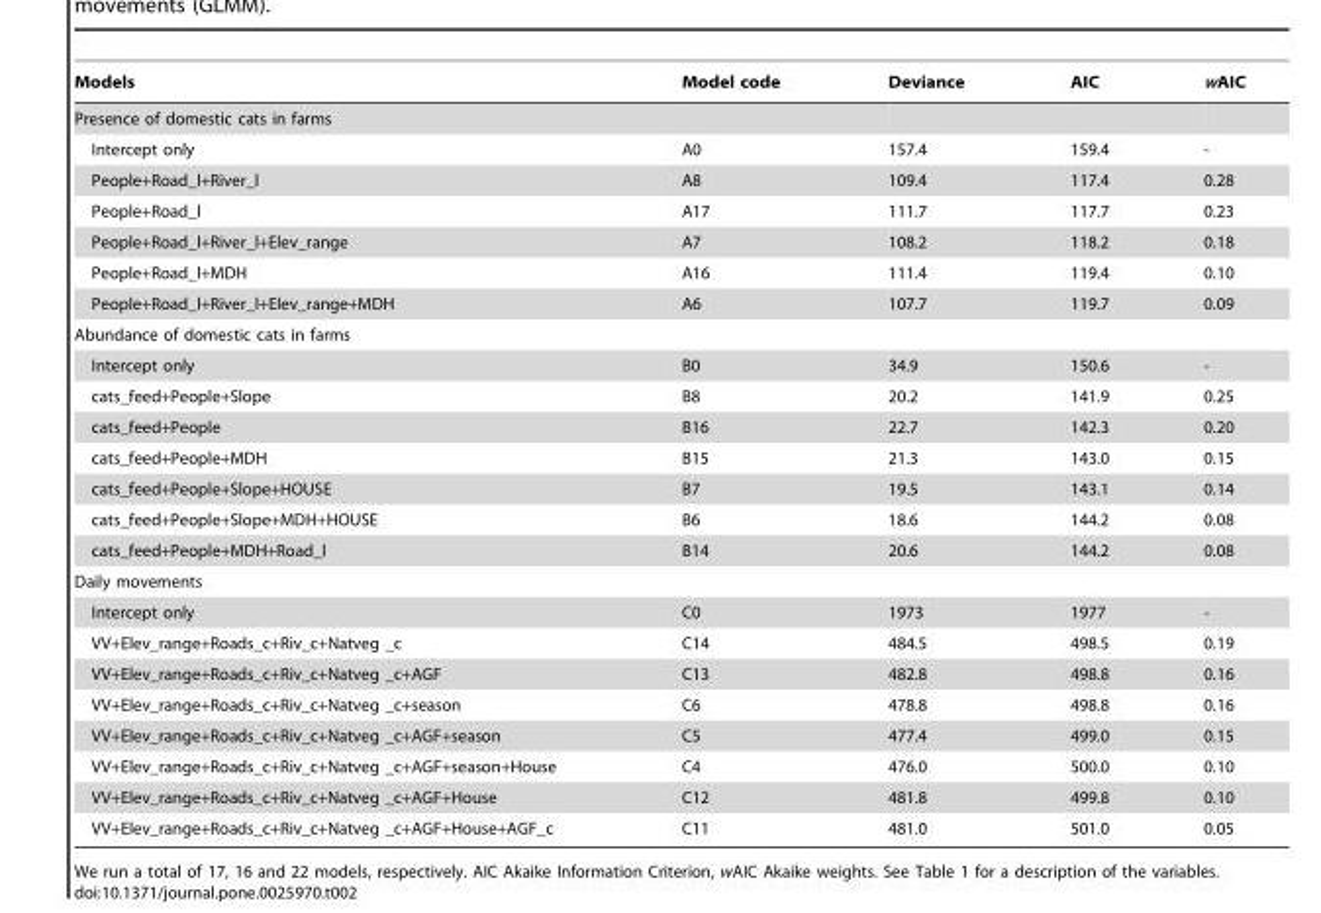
<table><thead><tr><td>Models</td><td>Model code</td><td>Deviance</td><td>AIC</td><td>wAIC</td></tr></thead><tbody><tr><td colspan="5">Presence of domestic cats in farms</td></tr><tr><td>Intercept only</td><td>A0</td><td>157.4</td><td>159.4</td><td>-</td></tr><tr><td>People+Road_l+River_l</td><td>A8</td><td>109.4</td><td>117.4</td><td>0.28</td></tr><tr><td>People+Road_l</td><td>A17</td><td>111.7</td><td>117.7</td><td>0.23</td></tr><tr><td>People+Road_l+River_l+Elev_range</td><td>A7</td><td>108.2</td><td>118.2</td><td>0.18</td></tr><tr><td>People+Road_l+MDH</td><td>A16</td><td>111.4</td><td>119.4</td><td>0.10</td></tr><tr><td>People+Road_l+River_l+Elev_range+MDH</td><td>A6</td><td>107.7</td><td>119.7</td><td>0.09</td></tr><tr><td colspan="5">Abundance of domestic cats in farms</td></tr><tr><td>Intercept only</td><td>B0</td><td>34.9</td><td>150.6</td><td>-</td></tr><tr><td>cats_feed+People+Slope</td><td>B8</td><td>20.2</td><td>141.9</td><td>0.25</td></tr><tr><td>cats_feed+People</td><td>B16</td><td>22.7</td><td>142.3</td><td>0.20</td></tr><tr><td>cats_feed+People+MDH</td><td>B15</td><td>21.3</td><td>143.0</td><td>0.15</td></tr><tr><td>cats_feed+People+Slope+HOUSE</td><td>B7</td><td>19.5</td><td>143.1</td><td>0.14</td></tr><tr><td>cats_feed+People+Slope+MDH+HOUSE</td><td>B6</td><td>18.6</td><td>144.2</td><td>0.08</td></tr><tr><td>cats_feed+People+MDH+Road_l</td><td>B14</td><td>20.6</td><td>144.2</td><td>0.08</td></tr><tr><td colspan="5">Daily movements</td></tr><tr><td>Intercept only</td><td>C0</td><td>1973</td><td>1977</td><td>-</td></tr><tr><td>VV+Elev_range+Roads_c+Riv_c+Natveg _c</td><td>C14</td><td>484.5</td><td>498.5</td><td>0.19</td></tr><tr><td>VV+Elev_range+Roads_c+Riv_c+Natveg _c+AGF</td><td>C13</td><td>482.8</td><td>498.8</td><td>0.16</td></tr><tr><td>VV+Elev_range+Roads_c+Riv_c+Natveg _c+season</td><td>C6</td><td>478.8</td><td>498.8</td><td>0.16</td></tr><tr><td>VV+Elev_range+Roads_c+Riv_c+Natveg _c+AGF+season</td><td>C5</td><td>477.4</td><td>499.0</td><td>0.15</td></tr><tr><td>VV+Elev_range+Roads_c+Riv_c+Natveg _c+AGF+season+House</td><td>C4</td><td>476.0</td><td>500.0</td><td>0.10</td></tr><tr><td>VV+Elev_range+Roads_c+Riv_c+Natveg _c+AGF+House</td><td>C12</td><td>481.8</td><td>499.8</td><td>0.10</td></tr><tr><td>VV+Elev_range+Roads_c+Riv_c+Natveg _c+AGF+House+AGF_c</td><td>C11</td><td>481.0</td><td>501.0</td><td>0.05</td></tr></tbody></table>